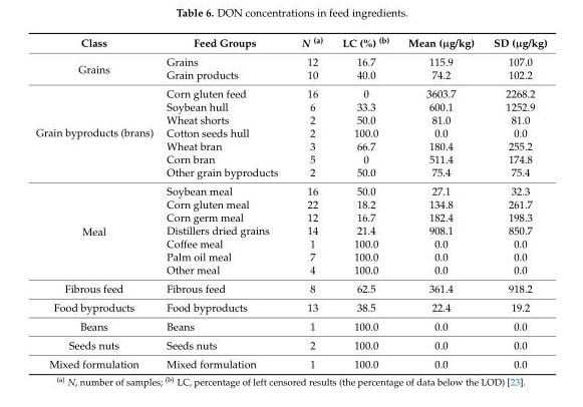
<table><thead><tr><td>Class</td><td>Feed Groups</td><td>N <sup>(a)</sup></td><td>LC (%) <sup>(b)</sup></td><td>Mean (µg/kg)</td><td>SD (µg/kg)</td></tr></thead><tbody><tr><td rowspan="2">Grains</td><td>Grains</td><td>12</td><td>16.7</td><td>115.9</td><td>107.0</td></tr><tr><td>Grain products</td><td>10</td><td>40.0</td><td>74.2</td><td>102.2</td></tr><tr><td rowspan="7">Grain byproducts (brans)</td><td>Corn gluten feed</td><td>16</td><td>0</td><td>3603.7</td><td>2268.2</td></tr><tr><td>Soybean hull</td><td>6</td><td>33.3</td><td>600.1</td><td>1252.9</td></tr><tr><td>Wheat shorts</td><td>2</td><td>50.0</td><td>81.0</td><td>81.0</td></tr><tr><td>Cotton seeds hull</td><td>2</td><td>100.0</td><td>0.0</td><td>0.0</td></tr><tr><td>Wheat bran</td><td>3</td><td>66.7</td><td>180.4</td><td>255.2</td></tr><tr><td>Corn bran</td><td>5</td><td>0</td><td>511.4</td><td>174.8</td></tr><tr><td>Other grain byproducts</td><td>2</td><td>50.0</td><td>75.4</td><td>75.4</td></tr><tr><td rowspan="7">Meal</td><td>Soybean meal</td><td>16</td><td>50.0</td><td>27.1</td><td>32.3</td></tr><tr><td>Corn gluten meal</td><td>22</td><td>18.2</td><td>134.8</td><td>261.7</td></tr><tr><td>Corn germ meal</td><td>12</td><td>16.7</td><td>182.4</td><td>198.3</td></tr><tr><td>Distillers dried grains</td><td>14</td><td>21.4</td><td>908.1</td><td>850.7</td></tr><tr><td>Coffee meal</td><td>1</td><td>100.0</td><td>0.0</td><td>0.0</td></tr><tr><td>Palm oil meal</td><td>7</td><td>100.0</td><td>0.0</td><td>0.0</td></tr><tr><td>Other meal</td><td>4</td><td>100.0</td><td>0.0</td><td>0.0</td></tr><tr><td>Fibrous feed</td><td>Fibrous feed</td><td>8</td><td>62.5</td><td>361.4</td><td>918.2</td></tr><tr><td>Food byproducts</td><td>Food byproducts</td><td>13</td><td>38.5</td><td>22.4</td><td>19.2</td></tr><tr><td>Beans</td><td>Beans</td><td>1</td><td>100.0</td><td>0.0</td><td>0.0</td></tr><tr><td>Seeds nuts</td><td>Seeds nuts</td><td>2</td><td>100.0</td><td>0.0</td><td>0.0</td></tr><tr><td>Mixed formulation</td><td>Mixed formulation</td><td>1</td><td>100.0</td><td>0.0</td><td>0.0</td></tr></tbody></table>